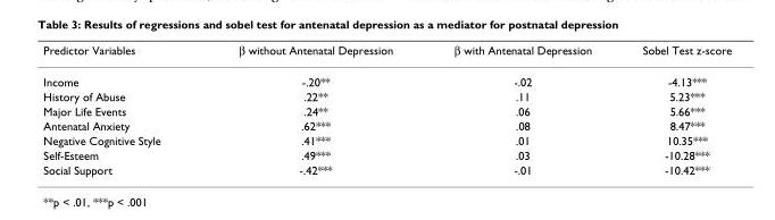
<table><thead><tr><td>Predictor Variables</td><td>β without Antenatal Depression</td><td>β with Antenatal Depression</td><td>Sobel Test z-score</td></tr></thead><tbody><tr><td>Income</td><td>-.20**</td><td>-.02</td><td>-4.13***</td></tr><tr><td>History of Abuse</td><td>.22**</td><td>.11</td><td>5.23***</td></tr><tr><td>Major Life Events</td><td>.24**</td><td>.06</td><td>5.66***</td></tr><tr><td>Antenatal Anxiety</td><td>.62***</td><td>.08</td><td>8.47***</td></tr><tr><td>Negative Cognitive Style</td><td>.41***</td><td>.01</td><td>10.35***</td></tr><tr><td>Self-Esteem</td><td>.49***</td><td>.03</td><td>-10.28***</td></tr><tr><td>Social Support</td><td>-.42***</td><td>-.01</td><td>-10.42***</td></tr></tbody></table>